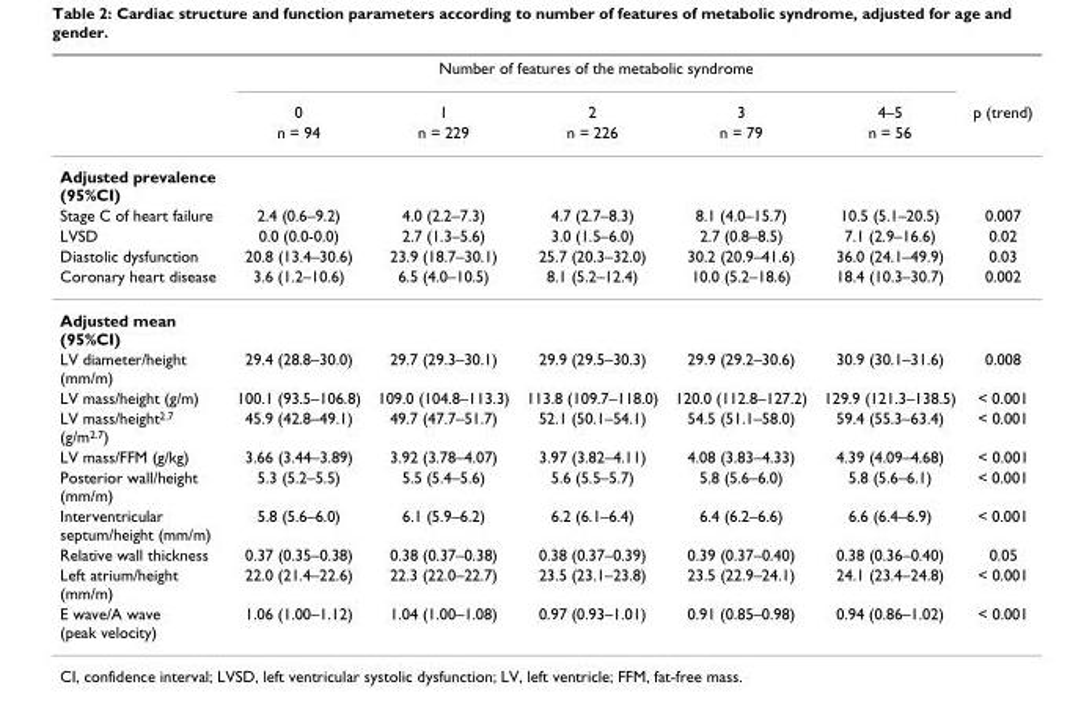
<table><thead><tr><td rowspan="3"></td><td colspan="5">Number of features of the metabolic syndrome</td><td rowspan="3">p (trend)</td></tr><tr><td rowspan="2">0 n = 94</td><td rowspan="2">1 n = 229</td><td rowspan="2">2 n = 226</td><td rowspan="2">3 n = 79</td><td rowspan="2">4–5 n = 56</td></tr><tr></tr></thead><tbody><tr><td colspan="7">Adjusted prevalence (95%CI)</td></tr><tr><td>Stage C of heart failure</td><td>2.4 (0.6–9.2)</td><td>4.0 (2.2–7.3)</td><td>4.7 (2.7–8.3)</td><td>8.1 (4.0–15.7)</td><td>10.5 (5.1–20.5)</td><td>0.007</td></tr><tr><td>LVSD</td><td>0.0 (0.0-0.0)</td><td>2.7 (1.3–5.6)</td><td>3.0 (1.5–6.0)</td><td>2.7 (0.8–8.5)</td><td>7.1 (2.9–16.6)</td><td>0.02</td></tr><tr><td>Diastolic dysfunction</td><td>20.8 (13.4–30.6)</td><td>23.9 (18.7–30.1)</td><td>25.7 (20.3–32.0)</td><td>30.2 (20.9–41.6)</td><td>36.0 (24.1–49.9)</td><td>0.03</td></tr><tr><td>Coronary heart disease</td><td>3.6 (1.2–10.6)</td><td>6.5 (4.0–10.5)</td><td>8.1 (5.2–12.4)</td><td>10.0 (5.2–18.6)</td><td>18.4 (10.3–30.7)</td><td>0.002</td></tr><tr><td colspan="7">Adjusted mean (95%CI)</td></tr><tr><td>LV diameter/height (mm/m)</td><td>29.4 (28.8–30.0)</td><td>29.7 (29.3–30.1)</td><td>29.9 (29.5–30.3)</td><td>29.9 (29.2–30.6)</td><td>30.9 (30.1–31.6)</td><td>0.008</td></tr><tr><td>LV mass/height (g/m)</td><td>100.1 (93.5–106.8)</td><td>109.0 (104.8–113.3)</td><td>113.8 (109.7–118.0)</td><td>120.0 (112.8–127.2)</td><td>129.9 (121.3–138.5)</td><td>&lt; 0.001</td></tr><tr><td>LV mass/height2.7 (g/m2.7)</td><td>45.9 (42.8–49.1)</td><td>49.7 (47.7–51.7)</td><td>52.1 (50.1–54.1)</td><td>54.5 (51.1–58.0)</td><td>59.4 (55.3–63.4)</td><td>&lt; 0.001</td></tr><tr><td>LV mass/FFM (g/kg)</td><td>3.66 (3.44–3.89)</td><td>3.92 (3.78–4.07)</td><td>3.97 (3.82–4.11)</td><td>4.08 (3.83–4.33)</td><td>4.39 (4.09–4.68)</td><td>&lt; 0.001</td></tr><tr><td>Posterior wall/height (mm/m)</td><td>5.3 (5.2–5.5)</td><td>5.5 (5.4–5.6)</td><td>5.6 (5.5–5.7)</td><td>5.8 (5.6–6.0)</td><td>5.8 (5.6–6.1)</td><td>&lt; 0.001</td></tr><tr><td>Interventricular septum/height (mm/m)</td><td>5.8 (5.6–6.0)</td><td>6.1 (5.9–6.2)</td><td>6.2 (6.1–6.4)</td><td>6.4 (6.2–6.6)</td><td>6.6 (6.4–6.9)</td><td>&lt; 0.001</td></tr><tr><td>Relative wall thickness</td><td>0.37 (0.35–0.38)</td><td>0.38 (0.37–0.38)</td><td>0.38 (0.37–0.39)</td><td>0.39 (0.37–0.40)</td><td>0.38 (0.36–0.40)</td><td>0.05</td></tr><tr><td>Left atrium/height (mm/m)</td><td>22.0 (21.4–22.6)</td><td>22.3 (22.0–22.7)</td><td>23.5 (23.1–23.8)</td><td>23.5 (22.9–24.1)</td><td>24.1 (23.4–24.8)</td><td>&lt; 0.001</td></tr><tr><td>E wave/A wave (peak velocity)</td><td>1.06 (1.00–1.12)</td><td>1.04 (1.00–1.08)</td><td>0.97 (0.93–1.01)</td><td>0.91 (0.85–0.98)</td><td>0.94 (0.86–1.02)</td><td>&lt; 0.001</td></tr></tbody></table>